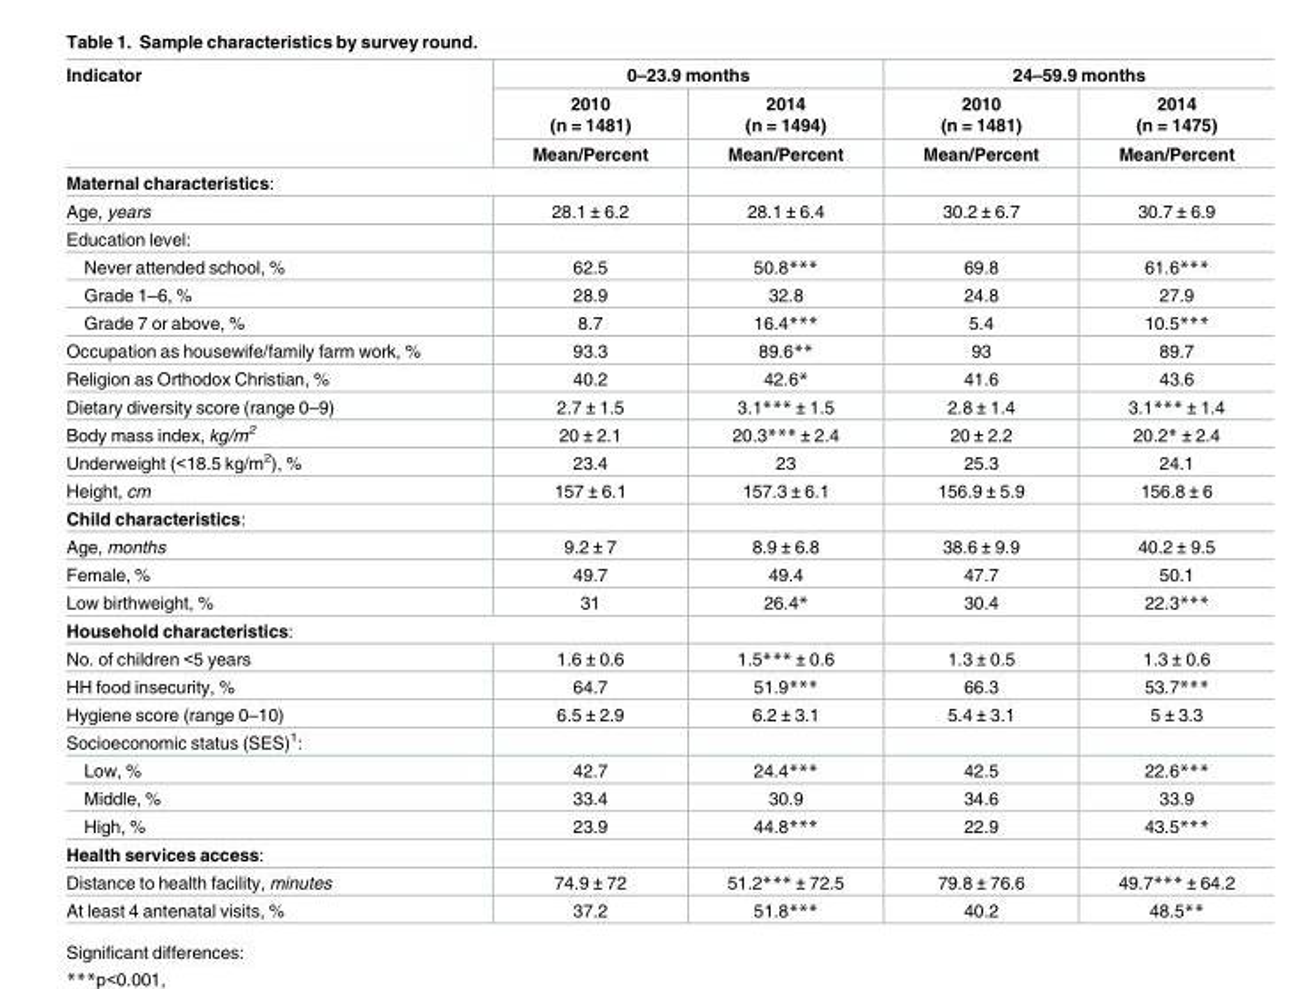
<table><thead><tr><td rowspan="3">Indicator</td><td colspan="2">0–23.9 months</td><td colspan="2">24–59.9 months</td></tr><tr><td rowspan="2">2010 (n = 1481) Mean/Percent</td><td rowspan="2">2014 (n = 1494) Mean/Percent</td><td rowspan="2">2010 (n = 1481) Mean/Percent</td><td rowspan="2">2014 (n = 1475) Mean/Percent</td></tr><tr></tr></thead><tbody><tr><td colspan="5">Maternal characteristics:</td></tr><tr><td>Age, years</td><td>28.1 ± 6.2</td><td>28.1 ± 6.4</td><td>30.2 ± 6.7</td><td>30.7 ± 6.9</td></tr><tr><td colspan="5">Education level:</td></tr><tr><td>Never attended school, %</td><td>62.5</td><td>50.8***</td><td>69.8</td><td>61.6***</td></tr><tr><td>Grade 1–6, %</td><td>28.9</td><td>32.8</td><td>24.8</td><td>27.9</td></tr><tr><td>Grade 7 or above, %</td><td>8.7</td><td>16.4***</td><td>5.4</td><td>10.5***</td></tr><tr><td>Occupation as housewife/family farm work, %</td><td>93.3</td><td>89.6**</td><td>93</td><td>89.7</td></tr><tr><td>Religion as Orthodox Christian, %</td><td>40.2</td><td>42.6*</td><td>41.6</td><td>43.6</td></tr><tr><td>Dietary diversity score (range 0–9)</td><td>2.7 ± 1.5</td><td>3.1*** ± 1.5</td><td>2.8 ± 1.4</td><td>3.1*** ± 1.4</td></tr><tr><td>Body mass index, kg/m<sup>2</sup></td><td>20 ± 2.1</td><td>20.3*** ± 2.4</td><td>20 ± 2.2</td><td>20.2* ± 2.4</td></tr><tr><td>Underweight (&lt;18.5 kg/m<sup>2</sup>), %</td><td>23.4</td><td>23</td><td>25.3</td><td>24.1</td></tr><tr><td>Height, cm</td><td>157 ± 6.1</td><td>157.3 ± 6.1</td><td>156.9 ± 5.9</td><td>156.8 ± 6</td></tr><tr><td colspan="5">Child characteristics:</td></tr><tr><td>Age, months</td><td>9.2 ± 7</td><td>8.9 ± 6.8</td><td>38.6 ± 9.9</td><td>40.2 ± 9.5</td></tr><tr><td>Female, %</td><td>49.7</td><td>49.4</td><td>47.7</td><td>50.1</td></tr><tr><td>Low birthweight, %</td><td>31</td><td>26.4*</td><td>30.4</td><td>22.3***</td></tr><tr><td colspan="5">Household characteristics:</td></tr><tr><td>No. of children &lt;5 years</td><td>1.6 ± 0.6</td><td>1.5*** ± 0.6</td><td>1.3 ± 0.5</td><td>1.3 ± 0.6</td></tr><tr><td>HH food insecurity, %</td><td>64.7</td><td>51.9***</td><td>66.3</td><td>53.7***</td></tr><tr><td>Hygiene score (range 0–10)</td><td>6.5 ± 2.9</td><td>6.2 ± 3.1</td><td>5.4 ± 3.1</td><td>5 ± 3.3</td></tr><tr><td colspan="5">Socioeconomic status (SES)<sup>1</sup>:</td></tr><tr><td>Low, %</td><td>42.7</td><td>24.4***</td><td>42.5</td><td>22.6***</td></tr><tr><td>Middle, %</td><td>33.4</td><td>30.9</td><td>34.6</td><td>33.9</td></tr><tr><td>High, %</td><td>23.9</td><td>44.8***</td><td>22.9</td><td>43.5***</td></tr><tr><td colspan="5">Health services access:</td></tr><tr><td>Distance to health facility, minutes</td><td>74.9 ± 72</td><td>51.2*** ± 72.5</td><td>79.8 ± 76.6</td><td>49.7*** ± 64.2</td></tr><tr><td>At least 4 antenatal visits, %</td><td>37.2</td><td>51.8***</td><td>40.2</td><td>48.5**</td></tr></tbody></table>